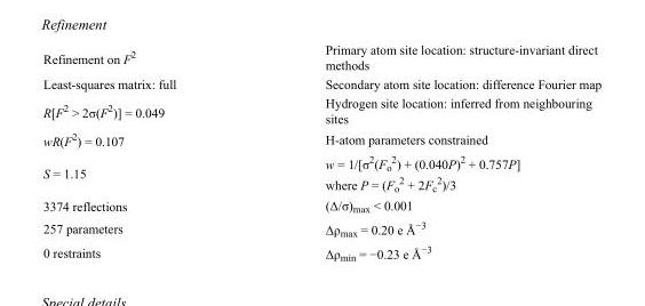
<table><tbody><tr><td>Refinement on F<sup>2</sup></td><td>Primary atom site location: structure-invariant direct methods</td></tr><tr><td>Least-squares matrix: full</td><td>Secondary atom site location: difference Fourier map</td></tr><tr><td>R[F<sup>2</sup> &gt; 2σ(F<sup>2</sup>)] = 0.049</td><td>Hydrogen site location: inferred from neighbouring sites</td></tr><tr><td>wR(F<sup>2</sup>) = 0.107</td><td>H-atom parameters constrained</td></tr><tr><td>S = 1.15</td><td>w = 1/[σ<sup>2</sup>(F<sub>o</sub> <sup>2</sup>) + (0.040P)<sup>2</sup> + 0.757P] where P = (F<sub>o</sub> <sup>2</sup> + 2F<sub>c</sub> <sup>2</sup>)/3</td></tr><tr><td>3374 reflections</td><td>(Δ/σ)<sub>max</sub> &lt; 0.001</td></tr><tr><td>257 parameters</td><td>Δρ<sub>max</sub> = 0.20 e Å<sup>−3</sup></td></tr><tr><td>0 restraints</td><td>Δρ<sub>min</sub> = −0.23 e Å<sup>−3</sup></td></tr></tbody></table>